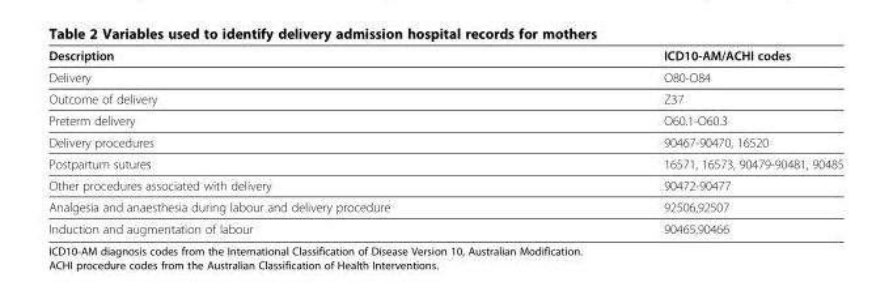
<table><thead><tr><td>Description</td><td>ICD10-AM/ACHI codes</td></tr></thead><tbody><tr><td>Delivery</td><td>O80-O84</td></tr><tr><td>Outcome of delivery</td><td>Z37</td></tr><tr><td>Preterm delivery</td><td>O60.1-O60.3</td></tr><tr><td>Delivery procedures</td><td>90467-90470, 16520</td></tr><tr><td>Postpartum sutures</td><td>16571, 16573, 90479-90481, 90485</td></tr><tr><td>Other procedures associated with delivery</td><td>90472-90477</td></tr><tr><td>Analgesia and anaesthesia during labour and delivery procedure</td><td>92506,92507</td></tr><tr><td>Induction and augmentation of labour</td><td>90465,90466</td></tr></tbody></table>